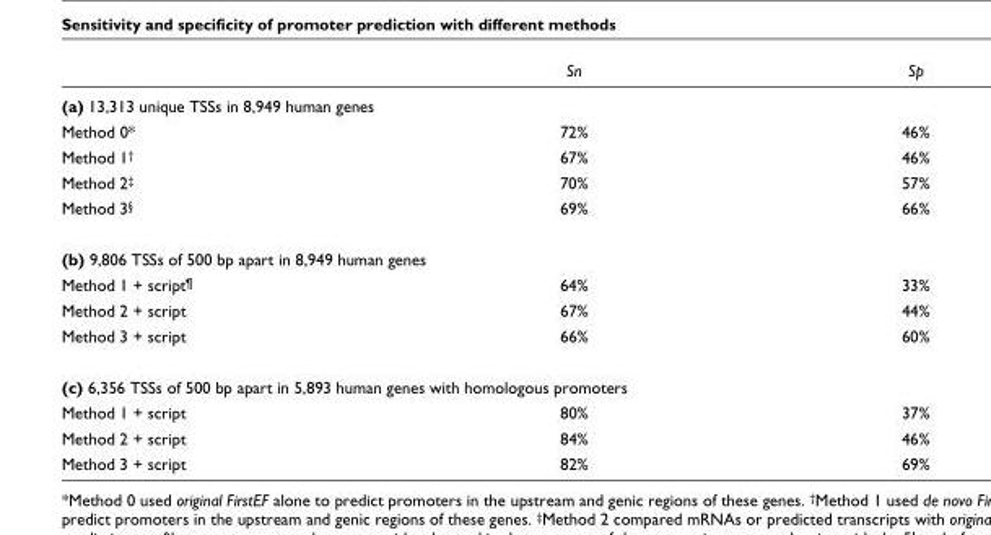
<table><thead><tr><td></td><td>Sn</td><td>Sp</td></tr></thead><tbody><tr><td colspan="3">(a) 13,313 unique TSSs in 8,949 human genes</td></tr><tr><td>Method 0*</td><td>72%</td><td>46%</td></tr><tr><td>Method 1†</td><td>67%</td><td>46%</td></tr><tr><td>Method 2‡</td><td>70%</td><td>57%</td></tr><tr><td>Method 3§</td><td>69%</td><td>66%</td></tr><tr><td colspan="3">(b) 9,806 TSSs of 500 bp apart in 8,949 human genes</td></tr><tr><td>Method 1 + script¶</td><td>64%</td><td>33%</td></tr><tr><td>Method 2 + script</td><td>67%</td><td>44%</td></tr><tr><td>Method 3 + script</td><td>66%</td><td>60%</td></tr><tr><td colspan="3">(c) 6,356 TSSs of 500 bp apart in 5,893 human genes with homologous promoters</td></tr><tr><td>Method 1 + script</td><td>80%</td><td>37%</td></tr><tr><td>Method 2 + script</td><td>84%</td><td>46%</td></tr><tr><td>Method 3 + script</td><td>82%</td><td>69%</td></tr></tbody></table>